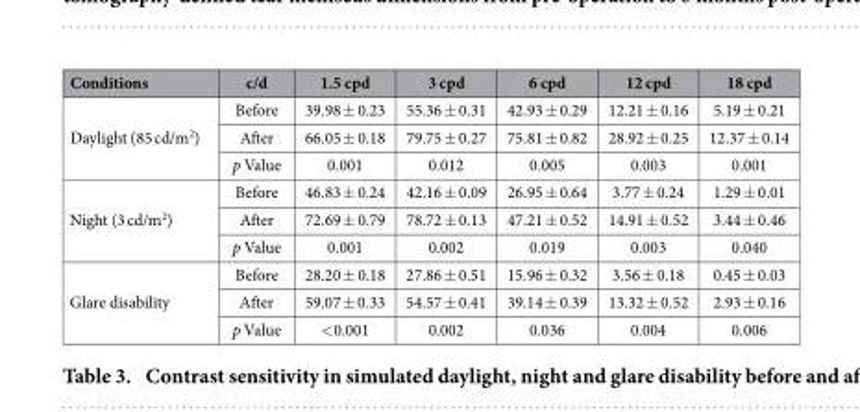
<table><thead><tr><td>Conditions</td><td>c/d</td><td>1.5 cpd</td><td>3 cpd</td><td>6 cpd</td><td>12 cpd</td><td>18 cpd</td></tr></thead><tbody><tr><td rowspan="3">Daylight (85 cd/m<sup>2</sup>)</td><td>Before</td><td>39.98 ± 0.23</td><td>55.36 ± 0.31</td><td>42.93 ± 0.29</td><td>12.21 ± 0.16</td><td>5.19 ± 0.21</td></tr><tr><td>After</td><td>66.05 ± 0.18</td><td>79.75 ± 0.27</td><td>75.81 ± 0.82</td><td>28.92 ± 0.25</td><td>12.37 ± 0.14</td></tr><tr><td>p Value</td><td>0.001</td><td>0.012</td><td>0.005</td><td>0.003</td><td>0.001</td></tr><tr><td rowspan="3">Night (3 cd/m<sup>2</sup>)</td><td>Before</td><td>46.83 ± 0.24</td><td>42.16 ± 0.09</td><td>26.95 ± 0.64</td><td>3.77 ± 0.24</td><td>1.29 ± 0.01</td></tr><tr><td>After</td><td>72.69 ± 0.79</td><td>78.72 ± 0.13</td><td>47.21 ± 0.52</td><td>14.91 ± 0.52</td><td>3.44 ± 0.46</td></tr><tr><td>p Value</td><td>0.001</td><td>0.002</td><td>0.019</td><td>0.003</td><td>0.040</td></tr><tr><td rowspan="3">Glare disability</td><td>Before</td><td>28.20 ± 0.18</td><td>27.86 ± 0.51</td><td>15.96 ± 0.32</td><td>3.56 ± 0.18</td><td>0.45 ± 0.03</td></tr><tr><td>After</td><td>59.07 ± 0.33</td><td>54.57 ± 0.41</td><td>39.14 ± 0.39</td><td>13.32 ± 0.52</td><td>2.93 ± 0.16</td></tr><tr><td>p Value</td><td>&lt; 0.001</td><td>0.002</td><td>0.036</td><td>0.004</td><td>0.006</td></tr></tbody></table>